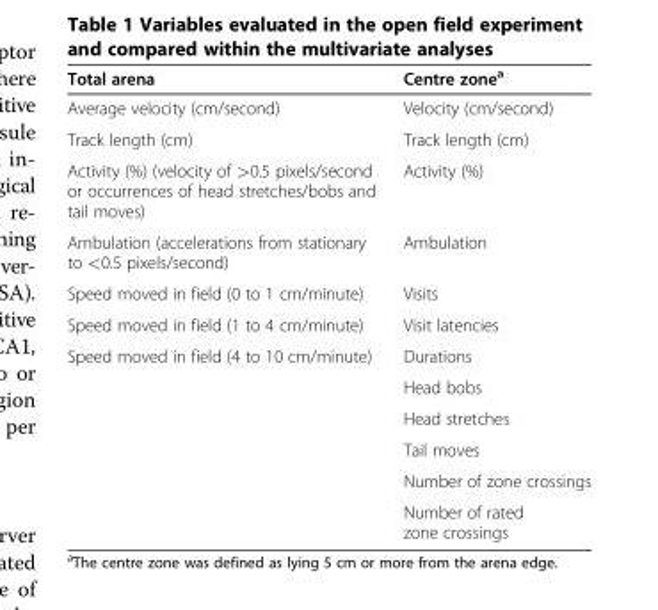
<table><thead><tr><td>Total arena</td><td>Centre zone<sup>a</sup></td></tr></thead><tbody><tr><td>Average velocity (cm/second)</td><td>Velocity (cm/second)</td></tr><tr><td>Track length (cm)</td><td>Track length (cm)</td></tr><tr><td>Activity (%) (velocity of &gt;0.5 pixels/second or occurrences of head stretches/bobs and tail moves)</td><td>Activity (%)</td></tr><tr><td>Ambulation (accelerations from stationary to &lt;0.5 pixels/second)</td><td>Ambulation</td></tr><tr><td>Speed moved in field (0 to 1 cm/minute)</td><td>Visits</td></tr><tr><td>Speed moved in field (1 to 4 cm/minute)</td><td>Visit latencies</td></tr><tr><td rowspan="6">Speed moved in field (4 to 10 cm/minute)</td><td>Durations</td></tr><tr><td>Head bobs</td></tr><tr><td>Head stretches</td></tr><tr><td>Tail moves</td></tr><tr><td>Number of zone crossings</td></tr><tr><td>Number of rated zone crossings</td></tr></tbody></table>